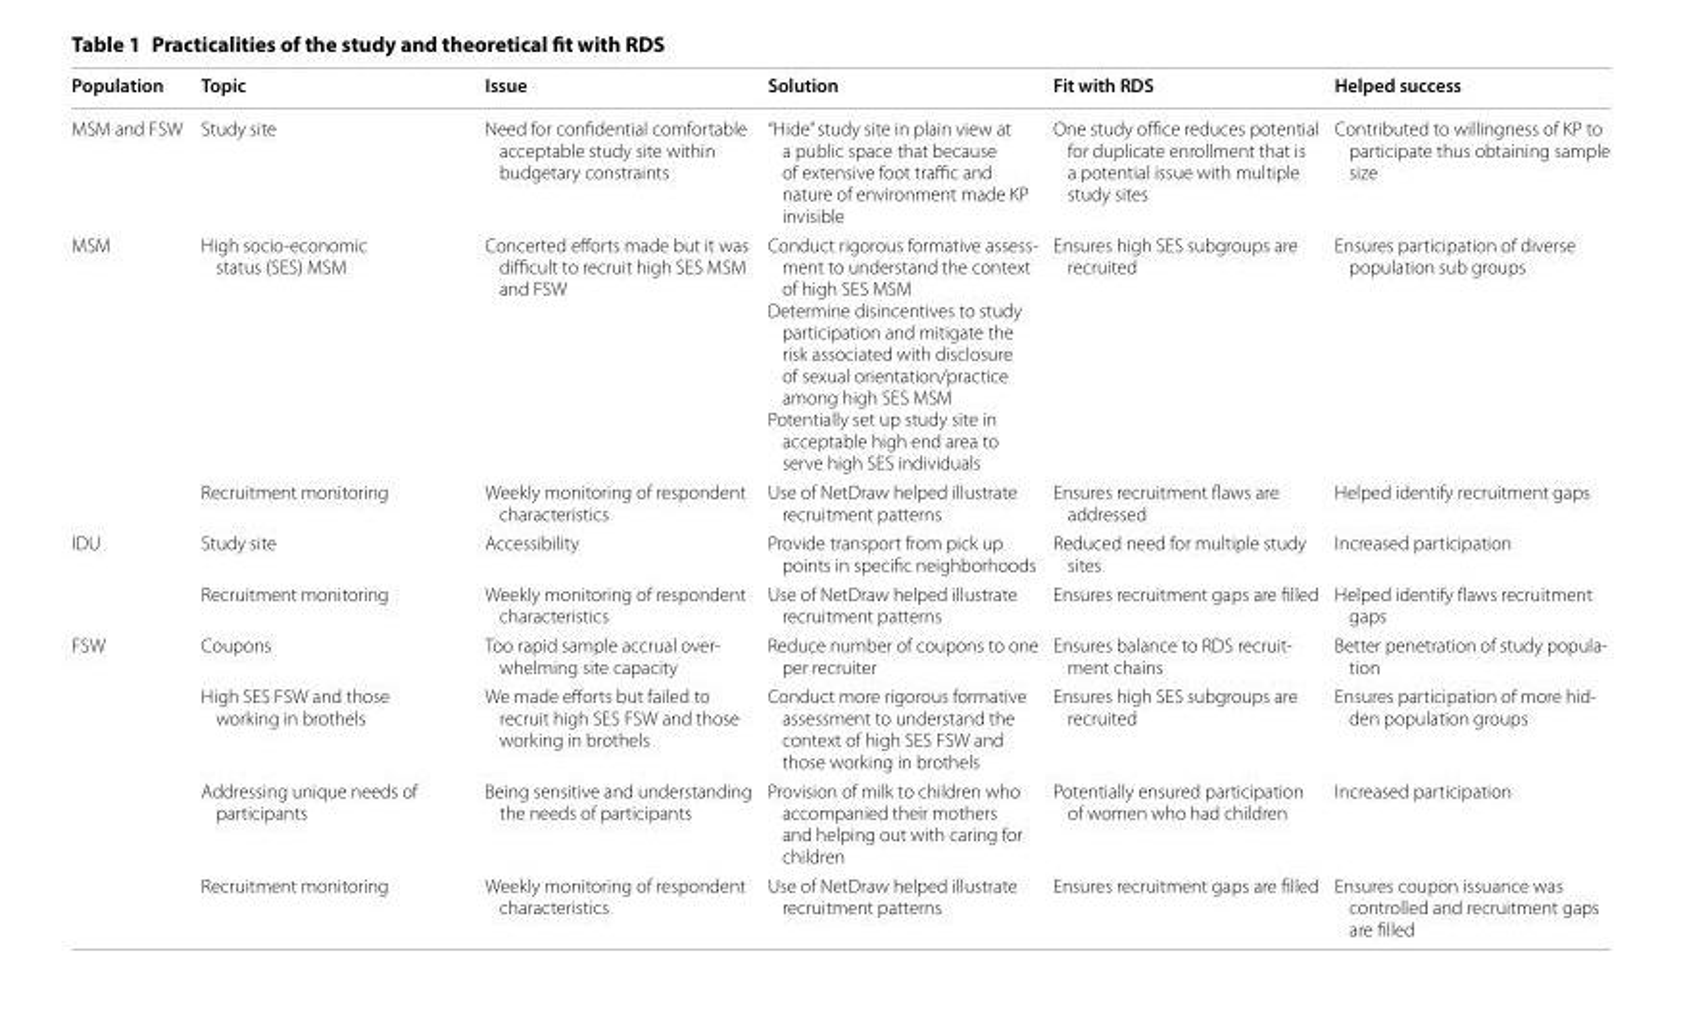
<table><thead><tr><td>Population</td><td>Topic</td><td>Issue</td><td>Solution</td><td>Fit with RDS</td><td>Helped success</td></tr></thead><tbody><tr><td>MSM and FSW</td><td>Study site</td><td>Need for confidential comfortable acceptable study site within budgetary constraints</td><td>“Hide” study site in plain view at a public space that because of extensive foot traffic and nature of environment made KP invisible</td><td>One study office reduces potential for duplicate enrollment that is a potential issue with multiple study sites</td><td>Contributed to willingness of KP to participate thus obtaining sample size</td></tr><tr><td rowspan="2">MSM</td><td>High socio-economic status (SES) MSM</td><td>Concerted efforts made but it was difficult to recruit high SES MSM and FSW</td><td>Conduct rigorous formative assess- ment to understand the context of high SES MSM Determine disincentives to study participation and mitigate the risk associated with disclosure of sexual orientation/practice among high SES MSM Potentially set up study site in acceptable high end area to serve high SES individuals</td><td>Ensures high SES subgroups are recruited</td><td>Ensures participation of diverse population sub groups</td></tr><tr><td>Recruitment monitoring</td><td>Weekly monitoring of respondent characteristics</td><td>Use of NetDraw helped illustrate recruitment patterns</td><td>Ensures recruitment flaws are addressed</td><td>Helped identify recruitment gaps</td></tr><tr><td rowspan="2">IDU</td><td>Study site</td><td>Accessibility</td><td>Provide transport from pick up points in specific neighborhoods</td><td>Reduced need for multiple study sites</td><td>Increased participation</td></tr><tr><td>Recruitment monitoring</td><td>Weekly monitoring of respondent characteristics</td><td>Use of NetDraw helped illustrate recruitment patterns</td><td>Ensures recruitment gaps are filled</td><td>Helped identify flaws recruitment gaps</td></tr><tr><td rowspan="4">FSW</td><td>Coupons</td><td>Too rapid sample accrual over- whelming site capacity</td><td>Reduce number of coupons to one per recruiter</td><td>Ensures balance to RDS recruit- ment chains</td><td>Better penetration of study popula- tion</td></tr><tr><td>High SES FSW and those working in brothels</td><td>We made efforts but failed to recruit high SES FSW and those working in brothels</td><td>Conduct more rigorous formative assessment to understand the context of high SES FSW and those working in brothels</td><td>Ensures high SES subgroups are recruited</td><td>Ensures participation of more hid- den population groups</td></tr><tr><td>Addressing unique needs of participants</td><td>Being sensitive and understanding the needs of participants</td><td>Provision of milk to children who accompanied their mothers and helping out with caring for children</td><td>Potentially ensured participation of women who had children</td><td>Increased participation</td></tr><tr><td>Recruitment monitoring</td><td>Weekly monitoring of respondent characteristics</td><td>Use of NetDraw helped illustrate recruitment patterns</td><td>Ensures recruitment gaps are filled</td><td>Ensures coupon issuance was controlled and recruitment gaps are filled</td></tr></tbody></table>